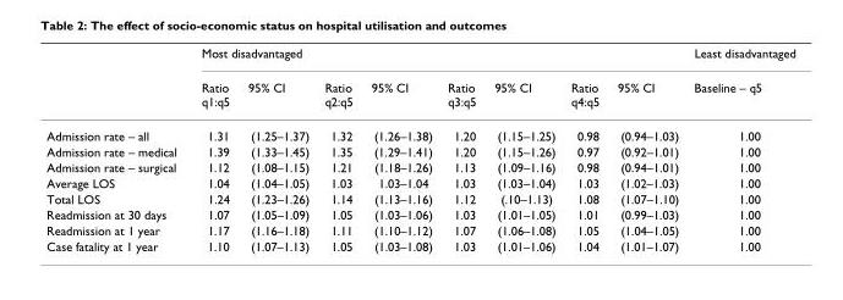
<table><thead><tr><td rowspan="2"></td><td colspan="8">Most disadvantaged</td><td rowspan="2">Least disadvantaged Baseline – q5</td></tr><tr><td>Ratio q1:q5</td><td>95% CI</td><td>Ratio q2:q5</td><td>95% CI</td><td>Ratio q3:q5</td><td>95% CI</td><td>Ratio q4:q5</td><td>95% CI</td></tr></thead><tbody><tr><td>Admission rate – all</td><td>1.31</td><td>(1.25–1.37)</td><td>1.32</td><td>(1.26–1.38)</td><td>1.20</td><td>(1.15–1.25)</td><td>0.98</td><td>(0.94–1.03)</td><td>1.00</td></tr><tr><td>Admission rate – medical</td><td>1.39</td><td>(1.33–1.45)</td><td>1.35</td><td>(1.29–1.41)</td><td>1.20</td><td>(1.15–1.26)</td><td>0.97</td><td>(0.92–1.01)</td><td>1.00</td></tr><tr><td>Admission rate – surgical</td><td>1.12</td><td>(1.08–1.15)</td><td>1.21</td><td>(1.18–1.26)</td><td>1.13</td><td>(1.09–1.16)</td><td>0.98</td><td>(0.94–1.01)</td><td>1.00</td></tr><tr><td>Average LOS</td><td>1.04</td><td>(1.04–1.05)</td><td>1.03</td><td>1.03–1.04</td><td>1.03</td><td>(1.03–1.04)</td><td>1.03</td><td>(1.02–1.03)</td><td>1.00</td></tr><tr><td>Total LOS</td><td>1.24</td><td>(1.23–1.26)</td><td>1.14</td><td>(1.13–1.16)</td><td>1.12</td><td>(.10–1.13)</td><td>1.08</td><td>(1.07–1.10)</td><td>1.00</td></tr><tr><td>Readmission at 30 days</td><td>1.07</td><td>(1.05–1.09)</td><td>1.05</td><td>(1.03–1.06)</td><td>1.03</td><td>(1.01–1.05)</td><td>1.01</td><td>(0.99–1.03)</td><td>1.00</td></tr><tr><td>Readmission at 1 year</td><td>1.17</td><td>(1.16–1.18)</td><td>1.11</td><td>(1.10–1.12)</td><td>1.07</td><td>(1.06–1.08)</td><td>1.05</td><td>(1.04–1.05)</td><td>1.00</td></tr><tr><td>Case fatality at 1 year</td><td>1.10</td><td>(1.07–1.13)</td><td>1.05</td><td>(1.03–1.08)</td><td>1.03</td><td>(1.01–1.06)</td><td>1.04</td><td>(1.01–1.07)</td><td>1.00</td></tr></tbody></table>